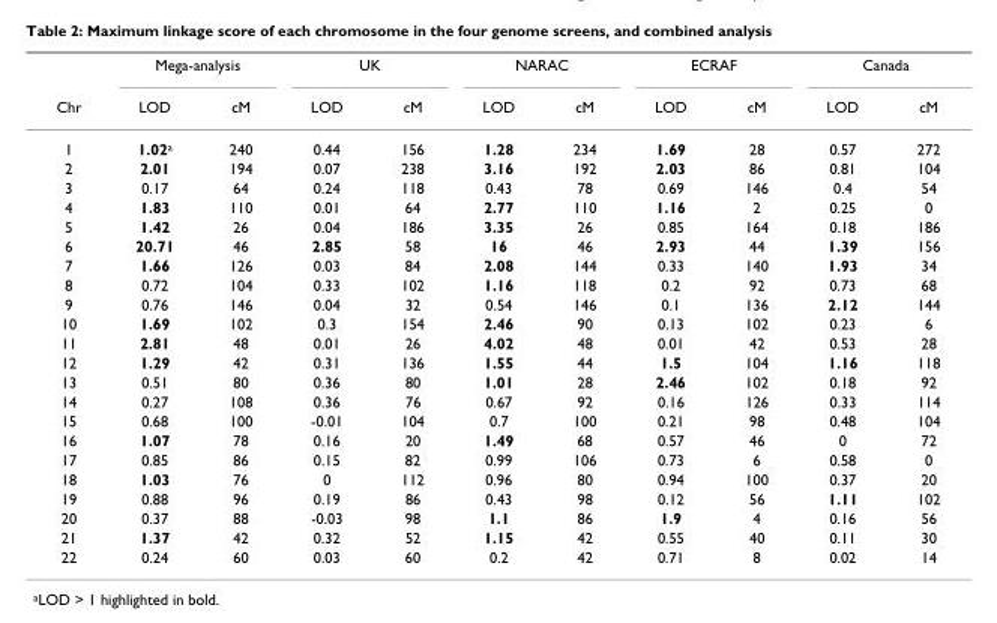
<table><thead><tr><td rowspan="2">Chr</td><td colspan="2">Mega-analysis</td><td colspan="2">UK</td><td colspan="2">NARAC</td><td colspan="2">ECRAF</td><td colspan="2">Canada</td></tr><tr><td>LOD</td><td>cM</td><td>LOD</td><td>cM</td><td>LOD</td><td>cM</td><td>LOD</td><td>cM</td><td>LOD</td><td>cM</td></tr></thead><tbody><tr><td>1</td><td>1.02<sup>a</sup></td><td>240</td><td>0.44</td><td>156</td><td>1.28</td><td>234</td><td>1.69</td><td>28</td><td>0.57</td><td>272</td></tr><tr><td>2</td><td>2.01</td><td>194</td><td>0.07</td><td>238</td><td>3.16</td><td>192</td><td>2.03</td><td>86</td><td>0.81</td><td>104</td></tr><tr><td>3</td><td>0.17</td><td>64</td><td>0.24</td><td>118</td><td>0.43</td><td>78</td><td>0.69</td><td>146</td><td>0.4</td><td>54</td></tr><tr><td>4</td><td>1.83</td><td>110</td><td>0.01</td><td>64</td><td>2.77</td><td>110</td><td>1.16</td><td>2</td><td>0.25</td><td>0</td></tr><tr><td>5</td><td>1.42</td><td>26</td><td>0.04</td><td>186</td><td>3.35</td><td>26</td><td>0.85</td><td>164</td><td>0.18</td><td>186</td></tr><tr><td>6</td><td>20.71</td><td>46</td><td>2.85</td><td>58</td><td>16</td><td>46</td><td>2.93</td><td>44</td><td>1.39</td><td>156</td></tr><tr><td>7</td><td>1.66</td><td>126</td><td>0.03</td><td>84</td><td>2.08</td><td>144</td><td>0.33</td><td>140</td><td>1.93</td><td>34</td></tr><tr><td>8</td><td>0.72</td><td>104</td><td>0.33</td><td>102</td><td>1.16</td><td>118</td><td>0.2</td><td>92</td><td>0.73</td><td>68</td></tr><tr><td>9</td><td>0.76</td><td>146</td><td>0.04</td><td>32</td><td>0.54</td><td>146</td><td>0.1</td><td>136</td><td>2.12</td><td>144</td></tr><tr><td>10</td><td>1.69</td><td>102</td><td>0.3</td><td>154</td><td>2.46</td><td>90</td><td>0.13</td><td>102</td><td>0.23</td><td>6</td></tr><tr><td>11</td><td>2.81</td><td>48</td><td>0.01</td><td>26</td><td>4.02</td><td>48</td><td>0.01</td><td>42</td><td>0.53</td><td>28</td></tr><tr><td>12</td><td>1.29</td><td>42</td><td>0.31</td><td>136</td><td>1.55</td><td>44</td><td>1.5</td><td>104</td><td>1.16</td><td>118</td></tr><tr><td>13</td><td>0.51</td><td>80</td><td>0.36</td><td>80</td><td>1.01</td><td>28</td><td>2.46</td><td>102</td><td>0.18</td><td>92</td></tr><tr><td>14</td><td>0.27</td><td>108</td><td>0.36</td><td>76</td><td>0.67</td><td>92</td><td>0.16</td><td>126</td><td>0.33</td><td>114</td></tr><tr><td>15</td><td>0.68</td><td>100</td><td>-0.01</td><td>104</td><td>0.7</td><td>100</td><td>0.21</td><td>98</td><td>0.48</td><td>104</td></tr><tr><td>16</td><td>1.07</td><td>78</td><td>0.16</td><td>20</td><td>1.49</td><td>68</td><td>0.57</td><td>46</td><td>0</td><td>72</td></tr><tr><td>17</td><td>0.85</td><td>86</td><td>0.15</td><td>82</td><td>0.99</td><td>106</td><td>0.73</td><td>6</td><td>0.58</td><td>0</td></tr><tr><td>18</td><td>1.03</td><td>76</td><td>0</td><td>112</td><td>0.96</td><td>80</td><td>0.94</td><td>100</td><td>0.37</td><td>20</td></tr><tr><td>19</td><td>0.88</td><td>96</td><td>0.19</td><td>86</td><td>0.43</td><td>98</td><td>0.12</td><td>56</td><td>1.11</td><td>102</td></tr><tr><td>20</td><td>0.37</td><td>88</td><td>-0.03</td><td>98</td><td>1.1</td><td>86</td><td>1.9</td><td>4</td><td>0.16</td><td>56</td></tr><tr><td>21</td><td>1.37</td><td>42</td><td>0.32</td><td>52</td><td>1.15</td><td>42</td><td>0.55</td><td>40</td><td>0.11</td><td>30</td></tr><tr><td>22</td><td>0.24</td><td>60</td><td>0.03</td><td>60</td><td>0.2</td><td>42</td><td>0.71</td><td>8</td><td>0.02</td><td>14</td></tr></tbody></table>